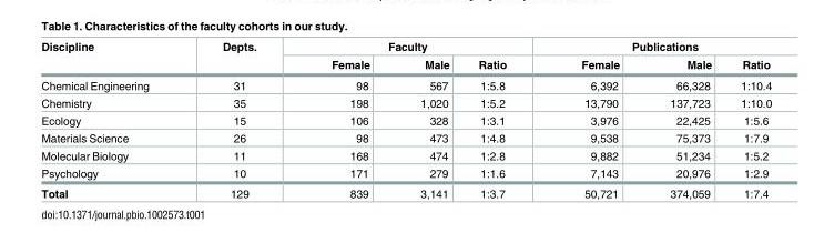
<table><thead><tr><td rowspan="2">Discipline</td><td rowspan="2">Depts.</td><td colspan="3">Faculty</td><td colspan="3">Publications</td></tr><tr><td>Female</td><td>Male</td><td>Ratio</td><td>Female</td><td>Male</td><td>Ratio</td></tr></thead><tbody><tr><td>Chemical Engineering</td><td>31</td><td>98</td><td>567</td><td>1:5.8</td><td>6,392</td><td>66,328</td><td>1:10.4</td></tr><tr><td>Chemistry</td><td>35</td><td>198</td><td>1,020</td><td>1:5.2</td><td>13,790</td><td>137,723</td><td>1:10.0</td></tr><tr><td>Ecology</td><td>15</td><td>106</td><td>328</td><td>1:3.1</td><td>3,976</td><td>22,425</td><td>1:5.6</td></tr><tr><td>Materials Science</td><td>26</td><td>98</td><td>473</td><td>1:4.8</td><td>9,538</td><td>75,373</td><td>1:7.9</td></tr><tr><td>Molecular Biology</td><td>11</td><td>168</td><td>474</td><td>1:2.8</td><td>9,882</td><td>51,234</td><td>1:5.2</td></tr><tr><td>Psychology</td><td>10</td><td>171</td><td>279</td><td>1:1.6</td><td>7,143</td><td>20,976</td><td>1:2.9</td></tr><tr><td>Total</td><td>129</td><td>839</td><td>3,141</td><td>1:3.7</td><td>50,721</td><td>374,059</td><td>1:7.4</td></tr></tbody></table>